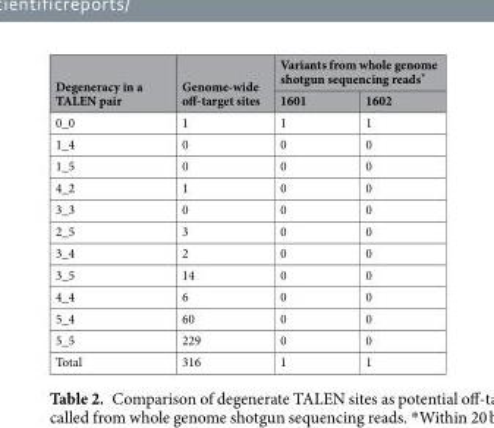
<table><thead><tr><td rowspan="2">Degeneracy in a TALEN pair</td><td rowspan="2">Genome-wide off-target sites</td><td colspan="2">Variants from whole genome shotgun sequencing reads*</td></tr><tr><td>1601</td><td>1602</td></tr></thead><tbody><tr><td>0_0</td><td>1</td><td>1</td><td>1</td></tr><tr><td>1_4</td><td>0</td><td>0</td><td>0</td></tr><tr><td>1_5</td><td>0</td><td>0</td><td>0</td></tr><tr><td>4_2</td><td>1</td><td>0</td><td>0</td></tr><tr><td>3_3</td><td>0</td><td>0</td><td>0</td></tr><tr><td>2_5</td><td>3</td><td>0</td><td>0</td></tr><tr><td>3_4</td><td>2</td><td>0</td><td>0</td></tr><tr><td>3_5</td><td>14</td><td>0</td><td>0</td></tr><tr><td>4_4</td><td>6</td><td>0</td><td>0</td></tr><tr><td>5_4</td><td>60</td><td>0</td><td>0</td></tr><tr><td>5_5</td><td>229</td><td>0</td><td>0</td></tr><tr><td>Total</td><td>316</td><td>1</td><td>1</td></tr></tbody></table>